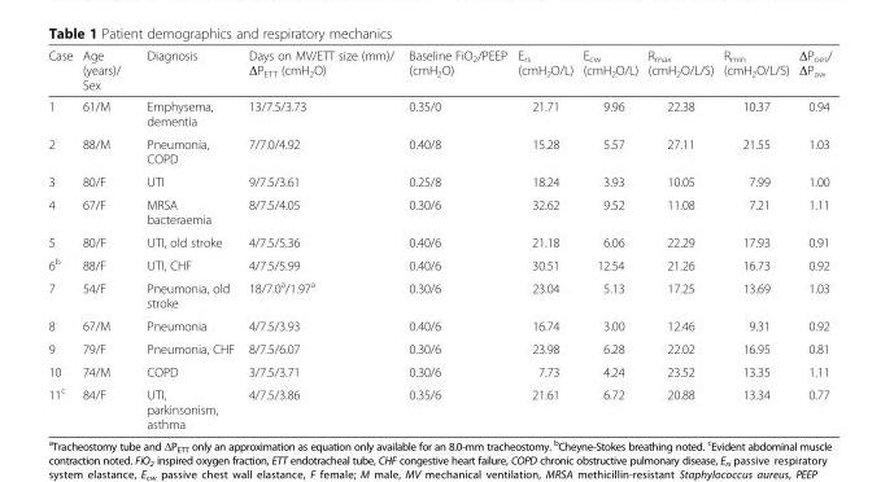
<table><thead><tr><td>Case</td><td>Age (years)/ Sex</td><td>Diagnosis</td><td>Days on MV/ETT size (mm)/ ΔP<sub>ETT</sub> (cmH<sub>2</sub>O)</td><td>Baseline FiO<sub>2</sub>/PEEP (cmH<sub>2</sub>O)</td><td>E<sub>rs</sub> (cmH<sub>2</sub>O/L)</td><td>E<sub>cw</sub> (cmH<sub>2</sub>O/L)</td><td>R<sub>max</sub> (cmH<sub>2</sub>O/L/S)</td><td>R<sub>min</sub> (cmH<sub>2</sub>O/L/S)</td><td>ΔP<sub>oes</sub>/ ΔP<sub>aw</sub></td></tr></thead><tbody><tr><td>1</td><td>61/M</td><td>Emphysema, dementia</td><td>13/7.5/3.73</td><td>0.35/0</td><td>21.71</td><td>9.96</td><td>22.38</td><td>10.37</td><td>0.94</td></tr><tr><td>2</td><td>88/M</td><td>Pneumonia, COPD</td><td>7/7.0/4.92</td><td>0.40/8</td><td>15.28</td><td>5.57</td><td>27.11</td><td>21.55</td><td>1.03</td></tr><tr><td>3</td><td>80/F</td><td>UTI</td><td>9/7.5/3.61</td><td>0.25/8</td><td>18.24</td><td>3.93</td><td>10.05</td><td>7.99</td><td>1.00</td></tr><tr><td>4</td><td>67/F</td><td>MRSA bacteraemia</td><td>8/7.5/4.05</td><td>0.30/6</td><td>32.62</td><td>9.52</td><td>11.08</td><td>7.21</td><td>1.11</td></tr><tr><td>5</td><td>80/F</td><td>UTI, old stroke</td><td>4/7.5/5.36</td><td>0.40/6</td><td>21.18</td><td>6.06</td><td>22.29</td><td>17.93</td><td>0.91</td></tr><tr><td>6<sup>b</sup></td><td>88/F</td><td>UTI, CHF</td><td>4/7.5/5.99</td><td>0.40/6</td><td>30.51</td><td>12.54</td><td>21.26</td><td>16.73</td><td>0.92</td></tr><tr><td>7</td><td>54/F</td><td>Pneumonia, old stroke</td><td>18/7.0<sup>a</sup>/1.97<sup>a</sup></td><td>0.30/6</td><td>23.04</td><td>5.13</td><td>17.25</td><td>13.69</td><td>1.03</td></tr><tr><td>8</td><td>67/M</td><td>Pneumonia</td><td>4/7.5/3.93</td><td>0.40/6</td><td>16.74</td><td>3.00</td><td>12.46</td><td>9.31</td><td>0.92</td></tr><tr><td>9</td><td>79/F</td><td>Pneumonia, CHF</td><td>8/7.5/6.07</td><td>0.30/6</td><td>23.98</td><td>6.28</td><td>22.02</td><td>16.95</td><td>0.81</td></tr><tr><td>10</td><td>74/M</td><td>COPD</td><td>3/7.5/3.71</td><td>0.30/6</td><td>7.73</td><td>4.24</td><td>23.52</td><td>13.35</td><td>1.11</td></tr><tr><td>11<sup>c</sup></td><td>84/F</td><td>UTI, parkinsonism, asthma</td><td>4/7.5/3.86</td><td>0.35/6</td><td>21.61</td><td>6.72</td><td>20.88</td><td>13.34</td><td>0.77</td></tr></tbody></table>